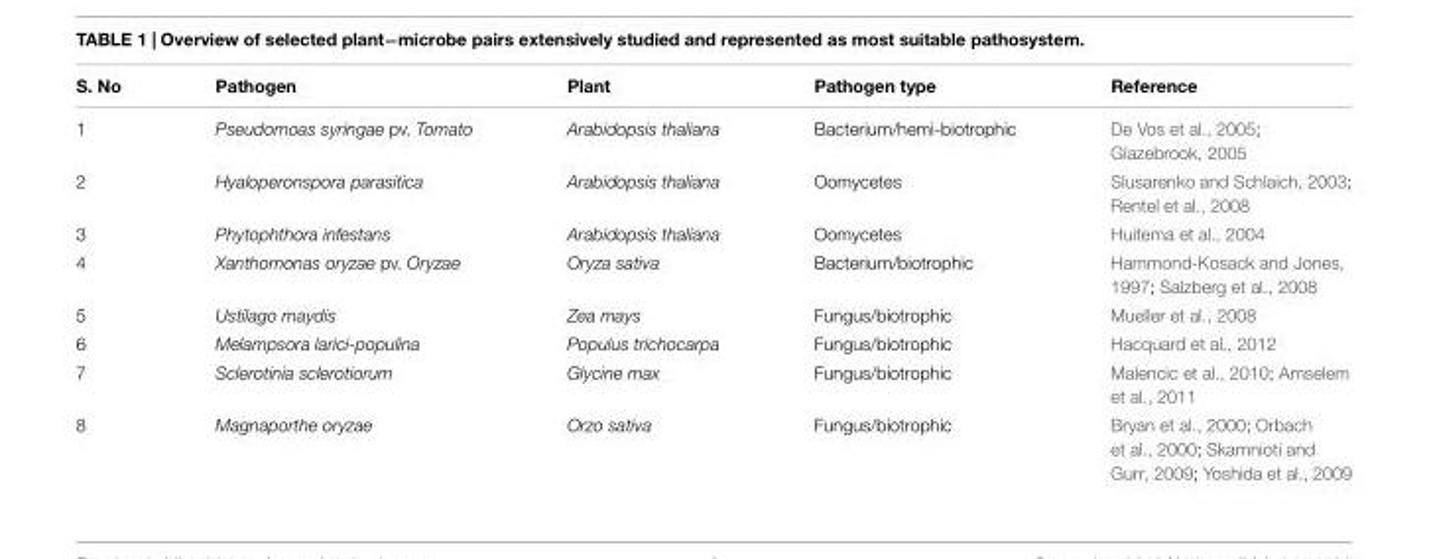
<table><thead><tr><td>S. No</td><td>Pathogen</td><td>Plant</td><td>Pathogen type</td><td>Reference</td></tr></thead><tbody><tr><td>1</td><td>Pseudomoas syringae pv. Tomato</td><td>Arabidopsis thaliana</td><td>Bacterium/hemi-biotrophic</td><td>De Vos et al., 2005; Glazebrook, 2005</td></tr><tr><td>2</td><td>Hyaloperonspora parasitica</td><td>Arabidopsis thaliana</td><td>Oomycetes</td><td>Slusarenko and Schlaich, 2003; Rentel et al., 2008</td></tr><tr><td>3</td><td>Phytophthora infestans</td><td>Arabidopsis thaliana</td><td>Oomycetes</td><td>Huitema et al., 2004</td></tr><tr><td>4</td><td>Xanthomonas oryzae pv. Oryzae</td><td>Oryza sativa</td><td>Bacterium/biotrophic</td><td>Hammond-Kosack and Jones, 1997; Salzberg et al., 2008</td></tr><tr><td>5</td><td>Ustilago maydis</td><td>Zea mays</td><td>Fungus/biotrophic</td><td>Mueller et al., 2008</td></tr><tr><td>6</td><td>Melampsora larici-populina</td><td>Populus trichocarpa</td><td>Fungus/biotrophic</td><td>Hacquard et al., 2012</td></tr><tr><td>7</td><td>Sclerotinia sclerotiorum</td><td>Glycine max</td><td>Fungus/biotrophic</td><td>Malencic et al., 2010; Amselem et al., 2011</td></tr><tr><td>8</td><td>Magnaporthe oryzae</td><td>Orzo sativa</td><td>Fungus/biotrophic</td><td>Bryan et al., 2000; Orbach et al., 2000; Skamnioti and Gurr, 2009; Yoshida et al., 2009</td></tr></tbody></table>